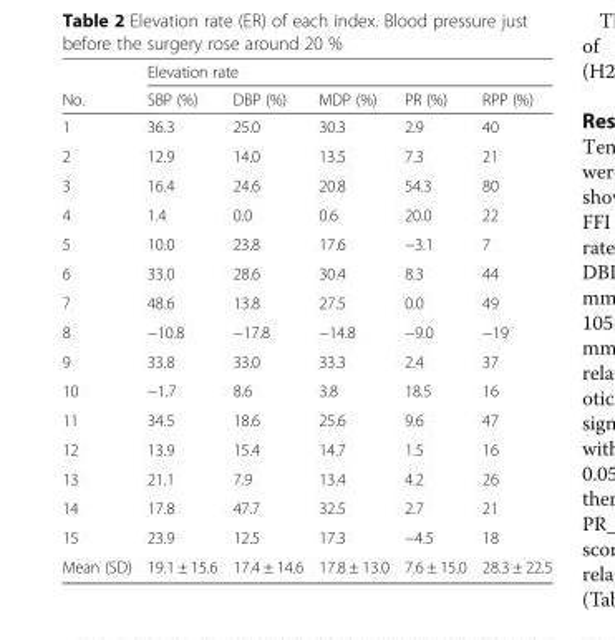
<table><thead><tr><td rowspan="2">No.</td><td colspan="5">Elevation rate</td></tr><tr><td>SBP (%)</td><td>DBP (%)</td><td>MDP (%)</td><td>PR (%)</td><td>RPP (%)</td></tr></thead><tbody><tr><td>1</td><td>36.3</td><td>25.0</td><td>30.3</td><td>2.9</td><td>40</td></tr><tr><td>2</td><td>12.9</td><td>14.0</td><td>13.5</td><td>7.3</td><td>21</td></tr><tr><td>3</td><td>16.4</td><td>24.6</td><td>20.8</td><td>54.3</td><td>80</td></tr><tr><td>4</td><td>1.4</td><td>0.0</td><td>0.6</td><td>20.0</td><td>22</td></tr><tr><td>5</td><td>10.0</td><td>23.8</td><td>17.6</td><td>−3.1</td><td>7</td></tr><tr><td>6</td><td>33.0</td><td>28.6</td><td>30.4</td><td>8.3</td><td>44</td></tr><tr><td>7</td><td>48.6</td><td>13.8</td><td>27.5</td><td>0.0</td><td>49</td></tr><tr><td>8</td><td>−10.8</td><td>−17.8</td><td>−14.8</td><td>−9.0</td><td>−19</td></tr><tr><td>9</td><td>33.8</td><td>33.0</td><td>33.3</td><td>2.4</td><td>37</td></tr><tr><td>10</td><td>−1.7</td><td>8.6</td><td>3.8</td><td>18.5</td><td>16</td></tr><tr><td>11</td><td>34.5</td><td>18.6</td><td>25.6</td><td>9.6</td><td>47</td></tr><tr><td>12</td><td>13.9</td><td>15.4</td><td>14.7</td><td>1.5</td><td>16</td></tr><tr><td>13</td><td>21.1</td><td>7.9</td><td>13.4</td><td>4.2</td><td>26</td></tr><tr><td>14</td><td>17.8</td><td>47.7</td><td>32.5</td><td>2.7</td><td>21</td></tr><tr><td>15</td><td>23.9</td><td>12.5</td><td>17.3</td><td>−4.5</td><td>18</td></tr><tr><td>Mean (SD)</td><td>19.1 ± 15.6</td><td>17.4 ± 14.6</td><td>17.8 ± 13.0</td><td>7.6 ± 15.0</td><td>28.3 ± 22.5</td></tr></tbody></table>